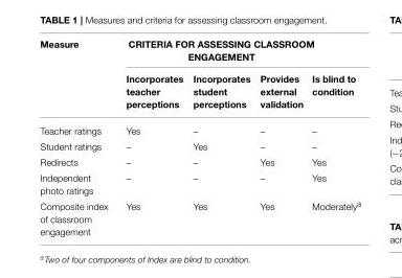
<table><thead><tr><td rowspan="2">Measure</td><td colspan="4">CRITERIA FOR ASSESSING CLASSROOM ENGAGEMENT</td></tr><tr><td>Incorporates teacher perceptions</td><td>Incorporates student perceptions</td><td>Provides external validation</td><td>Is blind to condition</td></tr></thead><tbody><tr><td>Teacher ratings</td><td>Yes</td><td>–</td><td>–</td><td>–</td></tr><tr><td>Student ratings</td><td>–</td><td>Yes</td><td>–</td><td>–</td></tr><tr><td>Redirects</td><td>–</td><td>–</td><td>Yes</td><td>Yes</td></tr><tr><td>Independent photo ratings</td><td>–</td><td>–</td><td>–</td><td>Yes</td></tr><tr><td>Composite index of classroom engagement</td><td>Yes</td><td>Yes</td><td>Yes</td><td>Moderately<sup>a</sup></td></tr></tbody></table>